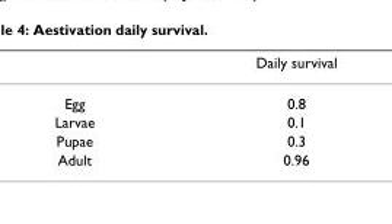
<table><thead><tr><td></td><td>Daily survival</td></tr></thead><tbody><tr><td>Egg</td><td>0.8</td></tr><tr><td>Larvae</td><td>0.1</td></tr><tr><td>Pupae</td><td>0.3</td></tr><tr><td>Adult</td><td>0.96</td></tr></tbody></table>